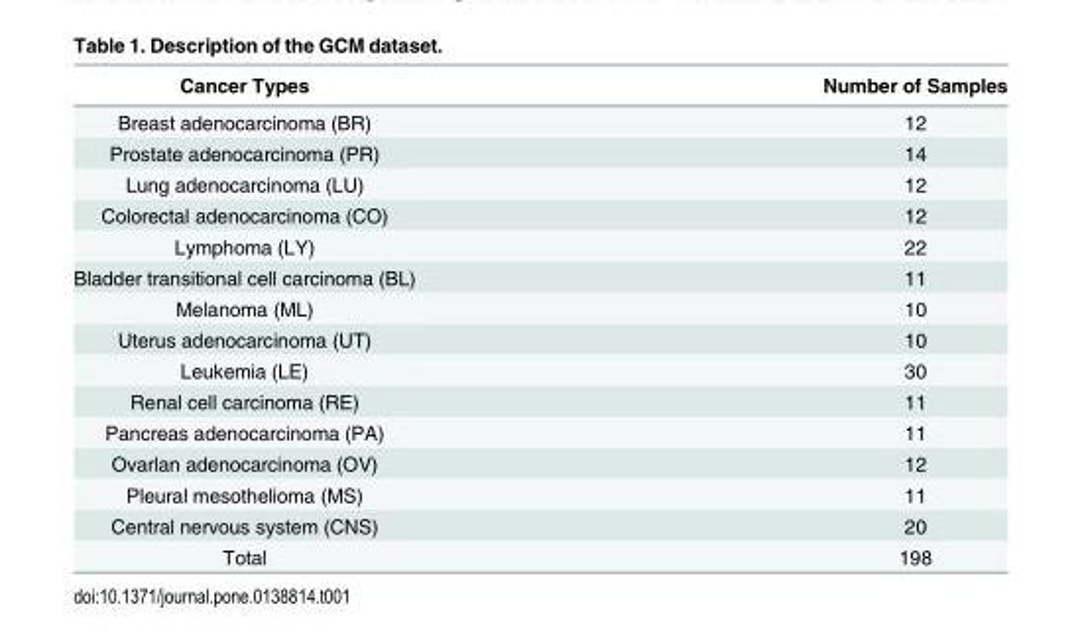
<table><thead><tr><td>Cancer Types</td><td>Number of Samples</td></tr></thead><tbody><tr><td>Breast adenocarcinoma (BR)</td><td>12</td></tr><tr><td>Prostate adenocarcinoma (PR)</td><td>14</td></tr><tr><td>Lung adenocarcinoma (LU)</td><td>12</td></tr><tr><td>Colorectal adenocarcinoma (CO)</td><td>12</td></tr><tr><td>Lymphoma (LY)</td><td>22</td></tr><tr><td>Bladder transitional cell carcinoma (BL)</td><td>11</td></tr><tr><td>Melanoma (ML)</td><td>10</td></tr><tr><td>Uterus adenocarcinoma (UT)</td><td>10</td></tr><tr><td>Leukemia (LE)</td><td>30</td></tr><tr><td>Renal cell carcinoma (RE)</td><td>11</td></tr><tr><td>Pancreas adenocarcinoma (PA)</td><td>11</td></tr><tr><td>Ovarlan adenocarcinoma (OV)</td><td>12</td></tr><tr><td>Pleural mesothelioma (MS)</td><td>11</td></tr><tr><td>Central nervous system (CNS)</td><td>20</td></tr><tr><td>Total</td><td>198</td></tr></tbody></table>